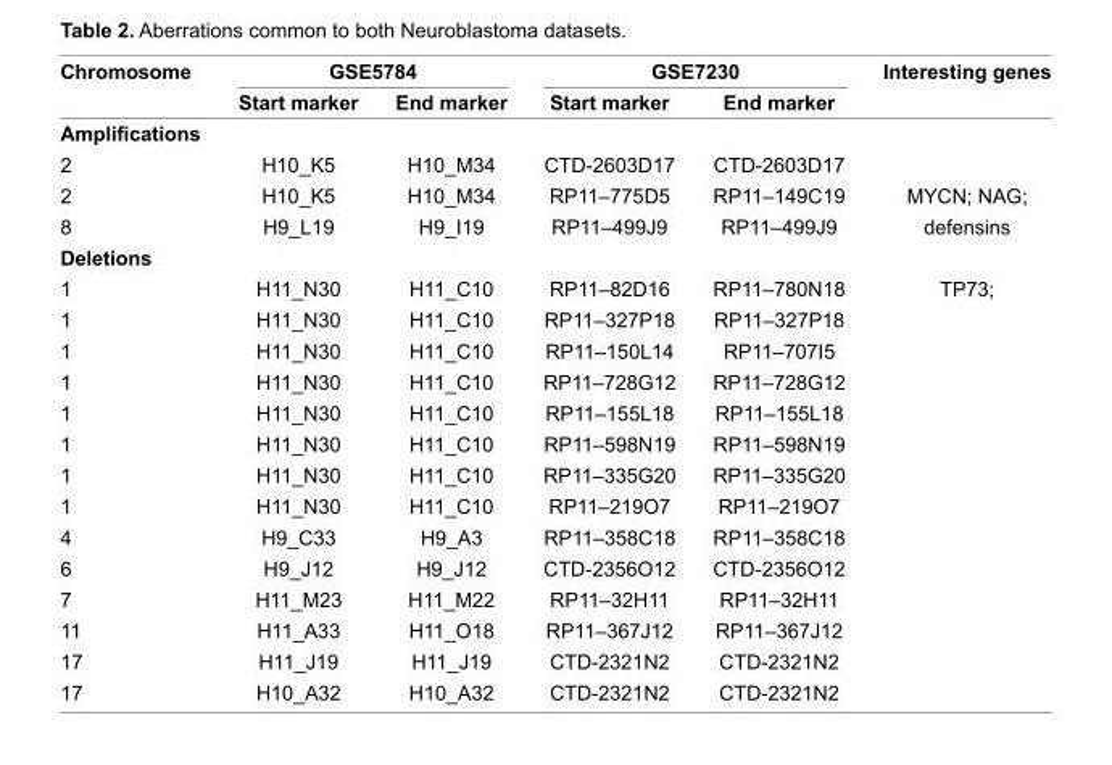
<table><thead><tr><td rowspan="2">Chromosome</td><td colspan="2">GSE5784</td><td colspan="2">GSE7230</td><td rowspan="2">Interesting genes</td></tr><tr><td>Start marker</td><td>End marker</td><td>Start marker</td><td>End marker</td></tr></thead><tbody><tr><td colspan="6">Amplifi cations</td></tr><tr><td>2</td><td>H10_K5</td><td>H10_M34</td><td>CTD-2603D17</td><td>CTD-2603D17</td><td></td></tr><tr><td>2</td><td>H10_K5</td><td>H10_M34</td><td>RP11–775D5</td><td>RP11–149C19</td><td>MYCN; NAG;</td></tr><tr><td>8</td><td>H9_L19</td><td>H9_I19</td><td>RP11–499J9</td><td>RP11–499J9</td><td>defensins</td></tr><tr><td colspan="6">Deletions</td></tr><tr><td>1</td><td>H11_N30</td><td>H11_C10</td><td>RP11–82D16</td><td>RP11–780N18</td><td>TP73;</td></tr><tr><td>1</td><td>H11_N30</td><td>H11_C10</td><td>RP11–327P18</td><td>RP11–327P18</td><td></td></tr><tr><td>1</td><td>H11_N30</td><td>H11_C10</td><td>RP11–150L14</td><td>RP11–707I5</td><td></td></tr><tr><td>1</td><td>H11_N30</td><td>H11_C10</td><td>RP11–728G12</td><td>RP11–728G12</td><td></td></tr><tr><td>1</td><td>H11_N30</td><td>H11_C10</td><td>RP11–155L18</td><td>RP11–155L18</td><td></td></tr><tr><td>1</td><td>H11_N30</td><td>H11_C10</td><td>RP11–598N19</td><td>RP11–598N19</td><td></td></tr><tr><td>1</td><td>H11_N30</td><td>H11_C10</td><td>RP11–335G20</td><td>RP11–335G20</td><td></td></tr><tr><td>1</td><td>H11_N30</td><td>H11_C10</td><td>RP11–219O7</td><td>RP11–219O7</td><td></td></tr><tr><td>4</td><td>H9_C33</td><td>H9_A3</td><td>RP11–358C18</td><td>RP11–358C18</td><td></td></tr><tr><td>6</td><td>H9_J12</td><td>H9_J12</td><td>CTD-2356O12</td><td>CTD-2356O12</td><td></td></tr><tr><td>7</td><td>H11_M23</td><td>H11_M22</td><td>RP11–32H11</td><td>RP11–32H11</td><td></td></tr><tr><td>11</td><td>H11_A33</td><td>H11_O18</td><td>RP11–367J12</td><td>RP11–367J12</td><td></td></tr><tr><td>17</td><td>H11_J19</td><td>H11_J19</td><td>CTD-2321N2</td><td>CTD-2321N2</td><td></td></tr><tr><td>17</td><td>H10_A32</td><td>H10_A32</td><td>CTD-2321N2</td><td>CTD-2321N2</td><td></td></tr></tbody></table>